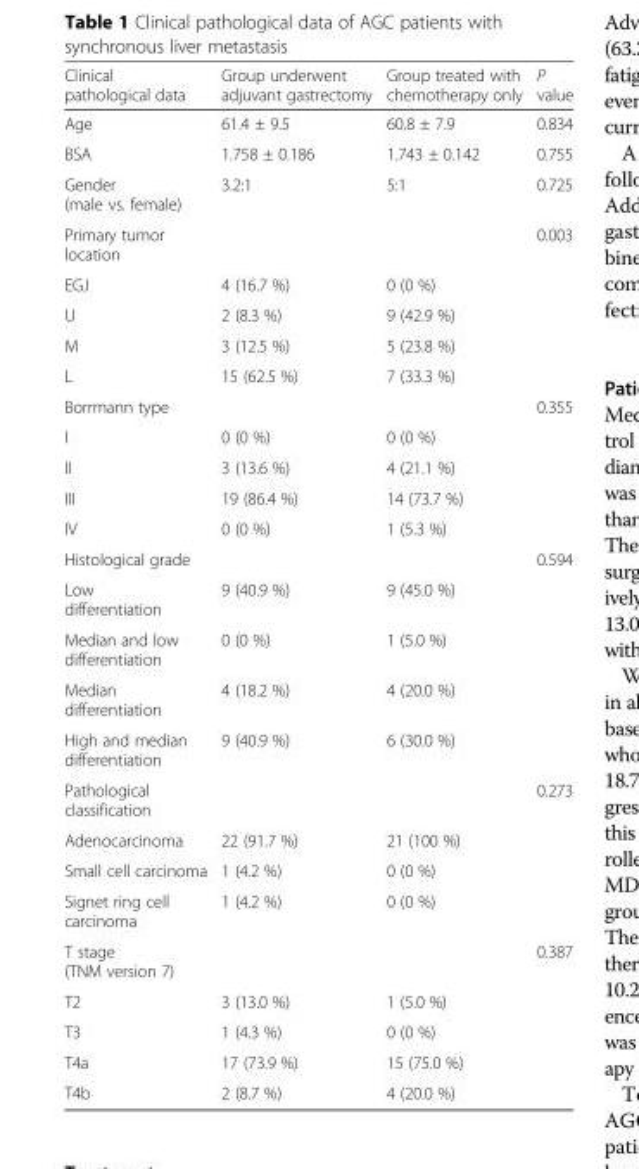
<table><thead><tr><td>Clinical pathological data</td><td>Group underwent adjuvant gastrectomy</td><td>Group treated with chemotherapy only</td><td>P value</td></tr></thead><tbody><tr><td>Age</td><td>61.4 ± 9.5</td><td>60.8 ± 7.9</td><td>0.834</td></tr><tr><td>BSA</td><td>1.758 ± 0.186</td><td>1.743 ± 0.142</td><td>0.755</td></tr><tr><td>Gender (male vs. female)</td><td>3.2:1</td><td>5:1</td><td>0.725</td></tr><tr><td>Primary tumor location</td><td></td><td></td><td>0.003</td></tr><tr><td>EGJ</td><td>4 (16.7 %)</td><td>0 (0 %)</td><td></td></tr><tr><td>U</td><td>2 (8.3 %)</td><td>9 (42.9 %)</td><td></td></tr><tr><td>M</td><td>3 (12.5 %)</td><td>5 (23.8 %)</td><td></td></tr><tr><td>L</td><td>15 (62.5 %)</td><td>7 (33.3 %)</td><td></td></tr><tr><td>Borrmann type</td><td></td><td></td><td>0.355</td></tr><tr><td>I</td><td>0 (0 %)</td><td>0 (0 %)</td><td></td></tr><tr><td>II</td><td>3 (13.6 %)</td><td>4 (21.1 %)</td><td></td></tr><tr><td>III</td><td>19 (86.4 %)</td><td>14 (73.7 %)</td><td></td></tr><tr><td>IV</td><td>0 (0 %)</td><td>1 (5.3 %)</td><td></td></tr><tr><td>Histological grade</td><td></td><td></td><td>0.594</td></tr><tr><td>Low differentiation</td><td>9 (40.9 %)</td><td>9 (45.0 %)</td><td></td></tr><tr><td>Median and low differentiation</td><td>0 (0 %)</td><td>1 (5.0 %)</td><td></td></tr><tr><td>Median differentiation</td><td>4 (18.2 %)</td><td>4 (20.0 %)</td><td></td></tr><tr><td>High and median differentiation</td><td>9 (40.9 %)</td><td>6 (30.0 %)</td><td></td></tr><tr><td>Pathological classification</td><td></td><td></td><td>0.273</td></tr><tr><td>Adenocarcinoma</td><td>22 (91.7 %)</td><td>21 (100 %)</td><td></td></tr><tr><td>Small cell carcinoma</td><td>1 (4.2 %)</td><td>0 (0 %)</td><td></td></tr><tr><td>Signet ring cell carcinoma</td><td>1 (4.2 %)</td><td>0 (0 %)</td><td></td></tr><tr><td>T stage (TNM version 7)</td><td></td><td></td><td>0.387</td></tr><tr><td>T2</td><td>3 (13.0 %)</td><td>1 (5.0 %)</td><td></td></tr><tr><td>T3</td><td>1 (4.3 %)</td><td>0 (0 %)</td><td></td></tr><tr><td>T4a</td><td>17 (73.9 %)</td><td>15 (75.0 %)</td><td></td></tr><tr><td>T4b</td><td>2 (8.7 %)</td><td>4 (20.0 %)</td><td></td></tr></tbody></table>